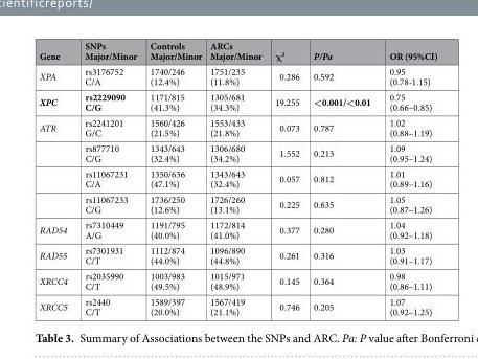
<table><thead><tr><td>Gene</td><td>SNPs Major/Minor</td><td>Controls Major/Minor</td><td>ARCs Major/Minor</td><td>χ<sup>2</sup></td><td>P/Pa</td><td>OR (95%CI)</td></tr></thead><tbody><tr><td>XPA</td><td>rs3176752 C/A</td><td>1740/246 (12.4%)</td><td>1751/235 (11.8%)</td><td>0.286</td><td>0.592</td><td>0.95 (0.78-1.15)</td></tr><tr><td>XPC</td><td>rs2229090 C/G</td><td>1171/815 (41.3%)</td><td>1305/681 (34.3%)</td><td>19.255</td><td>&lt;0.001/&lt;0.01</td><td>0.75 (0.66–0.85)</td></tr><tr><td rowspan="4">ATR</td><td>rs2241201 G/C</td><td>1560/426 (21.5%)</td><td>1553/433 (21.8%)</td><td>0.073</td><td>0.787</td><td>1.02 (0.88–1.19)</td></tr><tr><td>rs877710 C/G</td><td>1343/643 (32.4%)</td><td>1306/680 (34.2%)</td><td>1.552</td><td>0.213</td><td>1.09 (0.95–1.24)</td></tr><tr><td>rs11067231 C/A</td><td>1350/636 (47.1%)</td><td>1343/643 (32.4%)</td><td>0.057</td><td>0.812</td><td>1.01 (0.89–1.16)</td></tr><tr><td>rs11067233 C/G</td><td>1736/250 (12.6%)</td><td>1726/260 (13.1%)</td><td>0.225</td><td>0.635</td><td>1.05 (0.87–1.26)</td></tr><tr><td>RAD54</td><td>rs7310449 A/G</td><td>1191/795 (40.0%)</td><td>1172/814 (41.0%)</td><td>0.377</td><td>0.280</td><td>1.04 (0.92–1.18)</td></tr><tr><td>RAD55</td><td>rs7301931 C/T</td><td>1112/874 (44.0%)</td><td>1096/890 (44.8%)</td><td>0.261</td><td>0.316</td><td>1.03 (0.91–1.17)</td></tr><tr><td>XRCC4</td><td>rs2035990 C/T</td><td>1003/983 (49.5%)</td><td>1015/971 (48.9%)</td><td>0.145</td><td>0.364</td><td>0.98 (0.86–1.11)</td></tr><tr><td>XRCC5</td><td>rs2440 C/T</td><td>1589/397 (20.0%)</td><td>1567/419 (21.1%)</td><td>0.746</td><td>0.205</td><td>1.07 (0.92–1.25)</td></tr></tbody></table>